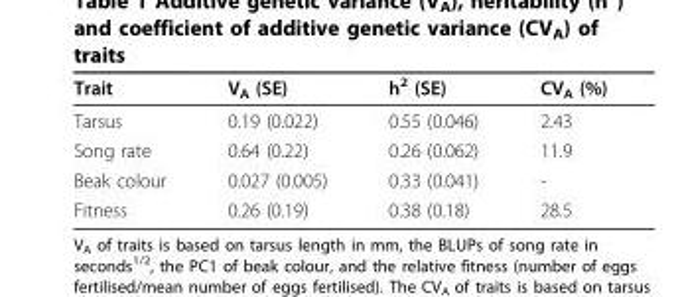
<table><thead><tr><td>Trait</td><td>V<sub>A</sub> (SE)</td><td>h<sup>2</sup> (SE)</td><td>CV<sub>A</sub> (%)</td></tr></thead><tbody><tr><td>Tarsus</td><td>0.19 (0.022)</td><td>0.55 (0.046)</td><td>2.43</td></tr><tr><td>Song rate</td><td>0.64 (0.22)</td><td>0.26 (0.062)</td><td>11.9</td></tr><tr><td>Beak colour</td><td>0.027 (0.005)</td><td>0.33 (0.041)</td><td>-</td></tr><tr><td>Fitness</td><td>0.26 (0.19)</td><td>0.38 (0.18)</td><td>28.5</td></tr></tbody></table>